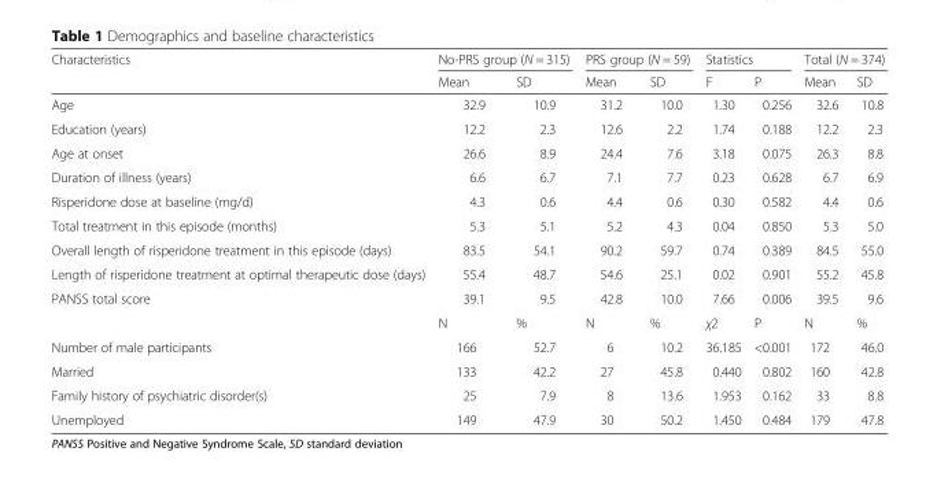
<table><thead><tr><td rowspan="2">Characteristics</td><td colspan="2">No-PRS group (N = 315)</td><td colspan="2">PRS group (N = 59)</td><td colspan="2">Statistics</td><td colspan="2">Total (N = 374)</td></tr><tr><td>Mean</td><td>SD</td><td>Mean</td><td>SD</td><td>F</td><td>P</td><td>Mean</td><td>SD</td></tr></thead><tbody><tr><td>Age</td><td>32.9</td><td>10.9</td><td>31.2</td><td>10.0</td><td>1.30</td><td>0.256</td><td>32.6</td><td>10.8</td></tr><tr><td>Education (years)</td><td>12.2</td><td>2.3</td><td>12.6</td><td>2.2</td><td>1.74</td><td>0.188</td><td>12.2</td><td>2.3</td></tr><tr><td>Age at onset</td><td>26.6</td><td>8.9</td><td>24.4</td><td>7.6</td><td>3.18</td><td>0.075</td><td>26.3</td><td>8.8</td></tr><tr><td>Duration of illness (years)</td><td>6.6</td><td>6.7</td><td>7.1</td><td>7.7</td><td>0.23</td><td>0.628</td><td>6.7</td><td>6.9</td></tr><tr><td>Risperidone dose at baseline (mg/d)</td><td>4.3</td><td>0.6</td><td>4.4</td><td>0.6</td><td>0.30</td><td>0.582</td><td>4.4</td><td>0.6</td></tr><tr><td>Total treatment in this episode (months)</td><td>5.3</td><td>5.1</td><td>5.2</td><td>4.3</td><td>0.04</td><td>0.850</td><td>5.3</td><td>5.0</td></tr><tr><td>Overall length of risperidone treatment in this episode (days)</td><td>83.5</td><td>54.1</td><td>90.2</td><td>59.7</td><td>0.74</td><td>0.389</td><td>84.5</td><td>55.0</td></tr><tr><td>Length of risperidone treatment at optimal therapeutic dose (days)</td><td>55.4</td><td>48.7</td><td>54.6</td><td>25.1</td><td>0.02</td><td>0.901</td><td>55.2</td><td>45.8</td></tr><tr><td rowspan="2">PANSS total score</td><td>39.1</td><td>9.5</td><td>42.8</td><td>10.0</td><td>7.66</td><td>0.006</td><td>39.5</td><td>9.6</td></tr><tr><td>N</td><td>%</td><td>N</td><td>%</td><td>χ2</td><td>P</td><td>N</td><td>%</td></tr><tr><td>Number of male participants</td><td>166</td><td>52.7</td><td>6</td><td>10.2</td><td>36.185</td><td>&lt;0.001</td><td>172</td><td>46.0</td></tr><tr><td>Married</td><td>133</td><td>42.2</td><td>27</td><td>45.8</td><td>0.440</td><td>0.802</td><td>160</td><td>42.8</td></tr><tr><td>Family history of psychiatric disorder(s)</td><td>25</td><td>7.9</td><td>8</td><td>13.6</td><td>1.953</td><td>0.162</td><td>33</td><td>8.8</td></tr><tr><td>Unemployed</td><td>149</td><td>47.9</td><td>30</td><td>50.2</td><td>1.450</td><td>0.484</td><td>179</td><td>47.8</td></tr></tbody></table>